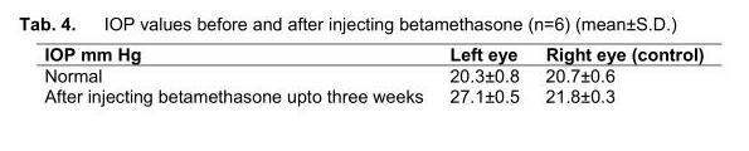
<table><thead><tr><td>IOP mm Hg</td><td>Left eye</td><td>Right eye (control)</td></tr></thead><tbody><tr><td>Normal</td><td>20.3±0.8</td><td>20.7±0.6</td></tr><tr><td>After injecting betamethasone upto three weeks</td><td>27.1±0.5</td><td>21.8±0.3</td></tr></tbody></table>